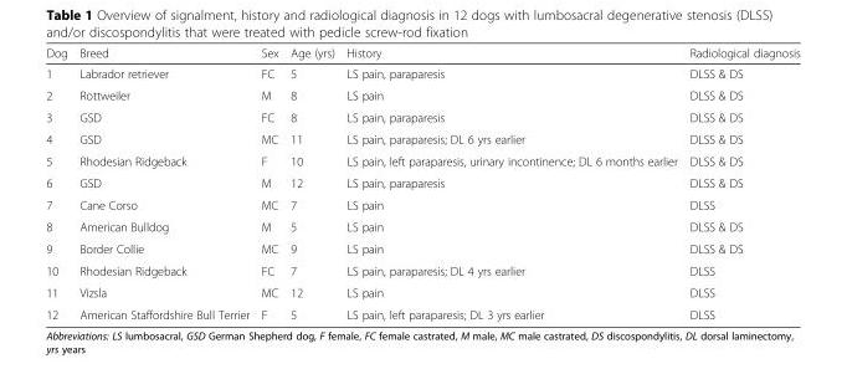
<table><thead><tr><td>Dog</td><td>Breed</td><td>Sex</td><td>Age (yrs)</td><td>History</td><td>Radiological diagnosis</td></tr></thead><tbody><tr><td>1</td><td>Labrador retriever</td><td>FC</td><td>5</td><td>LS pain, paraparesis</td><td>DLSS &amp; DS</td></tr><tr><td>2</td><td>Rottweiler</td><td>M</td><td>8</td><td>LS pain</td><td>DLSS &amp; DS</td></tr><tr><td>3</td><td>GSD</td><td>FC</td><td>8</td><td>LS pain, paraparesis</td><td>DLSS &amp; DS</td></tr><tr><td>4</td><td>GSD</td><td>MC</td><td>11</td><td>LS pain, paraparesis; DL 6 yrs earlier</td><td>DLSS &amp; DS</td></tr><tr><td>5</td><td>Rhodesian Ridgeback</td><td>F</td><td>10</td><td>LS pain, left paraparesis, urinary incontinence; DL 6 months earlier</td><td>DLSS &amp; DS</td></tr><tr><td>6</td><td>GSD</td><td>M</td><td>12</td><td>LS pain, paraparesis</td><td>DLSS &amp; DS</td></tr><tr><td>7</td><td>Cane Corso</td><td>MC</td><td>7</td><td>LS pain</td><td>DLSS</td></tr><tr><td>8</td><td>American Bulldog</td><td>M</td><td>5</td><td>LS pain</td><td>DLSS &amp; DS</td></tr><tr><td>9</td><td>Border Collie</td><td>MC</td><td>9</td><td>LS pain</td><td>DLSS &amp; DS</td></tr><tr><td>10</td><td>Rhodesian Ridgeback</td><td>FC</td><td>7</td><td>LS pain, paraparesis; DL 4 yrs earlier</td><td>DLSS</td></tr><tr><td>11</td><td>Vizsla</td><td>MC</td><td>12</td><td>LS pain</td><td>DLSS</td></tr><tr><td>12</td><td>American Staffordshire Bull Terrier</td><td>F</td><td>5</td><td>LS pain, left paraparesis; DL 3 yrs earlier</td><td>DLSS</td></tr></tbody></table>